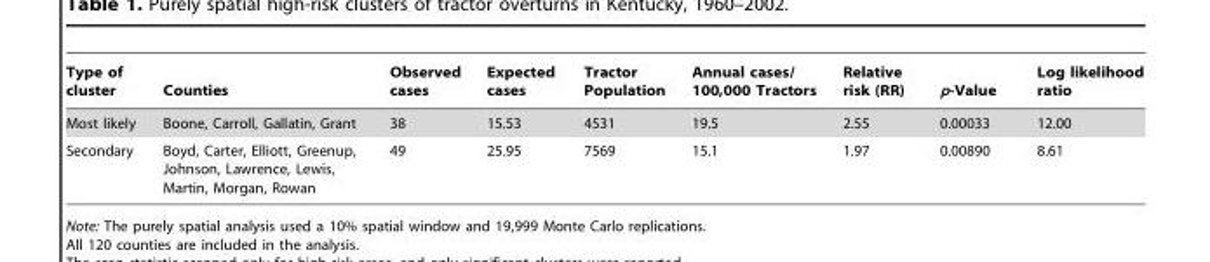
<table><thead><tr><td>Type of cluster</td><td>Counties</td><td>Observed cases</td><td>Expected cases</td><td>Tractor Population</td><td>Annual cases/ 100,000 Tractors</td><td>Relative risk (RR)</td><td>p-Value</td><td>Log likelihood ratio</td></tr></thead><tbody><tr><td>Most likely</td><td>Boone, Carroll, Gallatin, Grant</td><td>38</td><td>15.53</td><td>4531</td><td>19.5</td><td>2.55</td><td>0.00033</td><td>12.00</td></tr><tr><td>Secondary</td><td>Boyd, Carter, Elliott, Greenup, Johnson, Lawrence, Lewis, Martin, Morgan, Rowan</td><td>49</td><td>25.95</td><td>7569</td><td>15.1</td><td>1.97</td><td>0.00890</td><td>8.61</td></tr></tbody></table>